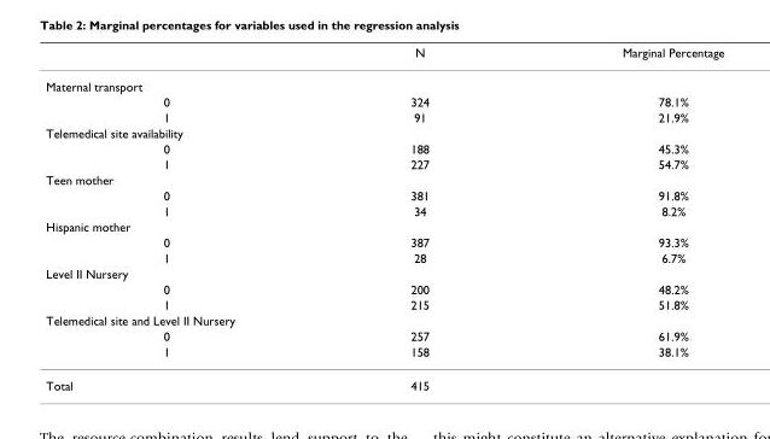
<table><thead><tr><td></td><td>N</td><td>Marginal Percentage</td></tr></thead><tbody><tr><td colspan="3">Maternal transport</td></tr><tr><td>0</td><td>324</td><td>78.1%</td></tr><tr><td>1</td><td>91</td><td>21.9%</td></tr><tr><td colspan="3">Telemedical site availability</td></tr><tr><td>0</td><td>188</td><td>45.3%</td></tr><tr><td>1</td><td>227</td><td>54.7%</td></tr><tr><td colspan="3">Teen mother</td></tr><tr><td>0</td><td>381</td><td>91.8%</td></tr><tr><td>1</td><td>34</td><td>8.2%</td></tr><tr><td colspan="3">Hispanic mother</td></tr><tr><td>0</td><td>387</td><td>93.3%</td></tr><tr><td>1</td><td>28</td><td>6.7%</td></tr><tr><td colspan="3">Level II Nursery</td></tr><tr><td>0</td><td>200</td><td>48.2%</td></tr><tr><td>1</td><td>215</td><td>51.8%</td></tr><tr><td colspan="3">Telemedical site and Level II Nursery</td></tr><tr><td>0</td><td>257</td><td>61.9%</td></tr><tr><td>1</td><td>158</td><td>38.1%</td></tr><tr><td>Total</td><td>415</td><td></td></tr></tbody></table>